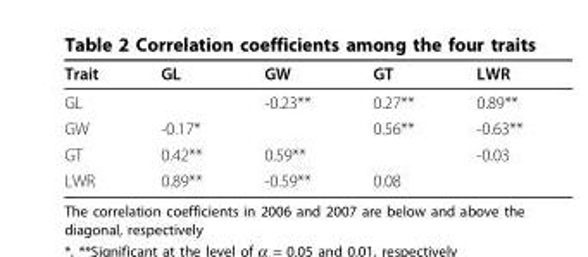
<table><thead><tr><td>Trait</td><td>GL</td><td>GW</td><td>GT</td><td>LWR</td></tr></thead><tbody><tr><td>GL</td><td></td><td>-0.23**</td><td>0.27**</td><td>0.89**</td></tr><tr><td>GW</td><td>-0.17*</td><td></td><td>0.56**</td><td>-0.63**</td></tr><tr><td>GT</td><td>0.42**</td><td>0.59**</td><td></td><td>-0.03</td></tr><tr><td>LWR</td><td>0.89**</td><td>-0.59**</td><td>0.08</td><td></td></tr></tbody></table>